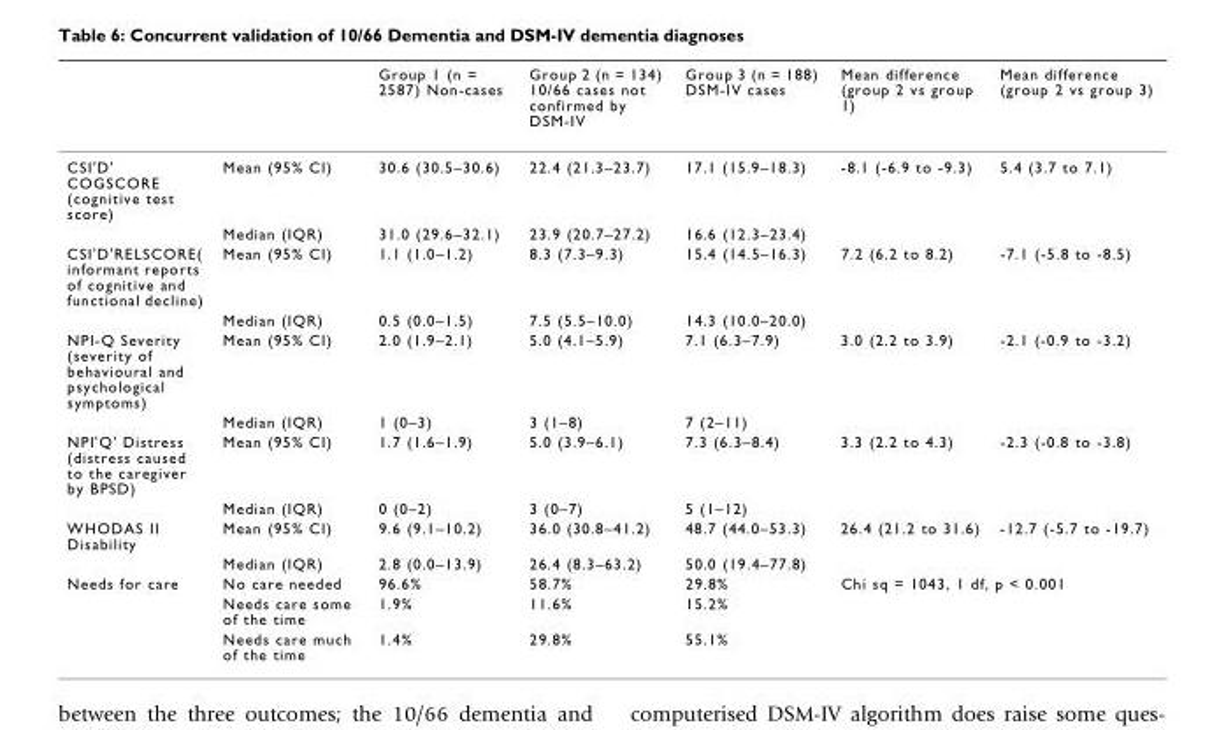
<table><thead><tr><td></td><td></td><td>Group 1 (n = 2587) Non-cases</td><td>Group 2 (n = 134) 10/66 cases not confirmed by DSM-IV</td><td>Group 3 (n = 188) DSM-IV cases</td><td>Mean difference (group 2 vs group 1)</td><td>Mean difference (group 2 vs group 3)</td></tr></thead><tbody><tr><td rowspan="2">CSI&#x27;D&#x27; COGSCORE (cognitive test score)</td><td>Mean (95% CI)</td><td>30.6 (30.5–30.6)</td><td>22.4 (21.3–23.7)</td><td>17.1 (15.9–18.3)</td><td>-8.1 (-6.9 to -9.3)</td><td>5.4 (3.7 to 7.1)</td></tr><tr><td>Median (IQR)</td><td>31.0 (29.6–32.1)</td><td>23.9 (20.7–27.2)</td><td>16.6 (12.3–23.4)</td><td></td><td></td></tr><tr><td rowspan="2">CSI&#x27;D&#x27;RELSCORE( informant reports of cognitive and functional decline)</td><td>Mean (95% CI)</td><td>1.1 (1.0–1.2)</td><td>8.3 (7.3–9.3)</td><td>15.4 (14.5–16.3)</td><td>7.2 (6.2 to 8.2)</td><td>-7.1 (-5.8 to -8.5)</td></tr><tr><td>Median (IQR)</td><td>0.5 (0.0–1.5)</td><td>7.5 (5.5–10.0)</td><td>14.3 (10.0–20.0)</td><td></td><td></td></tr><tr><td rowspan="2">NPI-Q Severity (severity of behavioural and psychological symptoms)</td><td>Mean (95% CI)</td><td>2.0 (1.9–2.1)</td><td>5.0 (4.1–5.9)</td><td>7.1 (6.3–7.9)</td><td>3.0 (2.2 to 3.9)</td><td>-2.1 (-0.9 to -3.2)</td></tr><tr><td>Median (IQR)</td><td>1 (0–3)</td><td>3 (1–8)</td><td>7 (2–11)</td><td></td><td></td></tr><tr><td rowspan="2">NPI&#x27;Q&#x27; Distress (distress caused to the caregiver by BPSD)</td><td>Mean (95% CI)</td><td>1.7 (1.6–1.9)</td><td>5.0 (3.9–6.1)</td><td>7.3 (6.3–8.4)</td><td>3.3 (2.2 to 4.3)</td><td>-2.3 (-0.8 to -3.8)</td></tr><tr><td>Median (IQR)</td><td>0 (0–2)</td><td>3 (0–7)</td><td>5 (1–12)</td><td></td><td></td></tr><tr><td rowspan="2">WHODAS II Disability</td><td>Mean (95% CI)</td><td>9.6 (9.1–10.2)</td><td>36.0 (30.8–41.2)</td><td>48.7 (44.0–53.3)</td><td>26.4 (21.2 to 31.6)</td><td>-12.7 (-5.7 to -19.7)</td></tr><tr><td>Median (IQR)</td><td>2.8 (0.0–13.9)</td><td>26.4 (8.3–63.2)</td><td>50.0 (19.4–77.8)</td><td></td><td></td></tr><tr><td rowspan="3">Needs for care</td><td>No care needed</td><td>96.6%</td><td>58.7%</td><td>29.8%</td><td colspan="2">Chi sq = 1043, 1 df, p &lt; 0.001</td></tr><tr><td>Needs care some of the time</td><td>1.9%</td><td>11.6%</td><td>15.2%</td><td></td><td></td></tr><tr><td>Needs care much of the time</td><td>1.4%</td><td>29.8%</td><td>55.1%</td><td></td><td></td></tr></tbody></table>